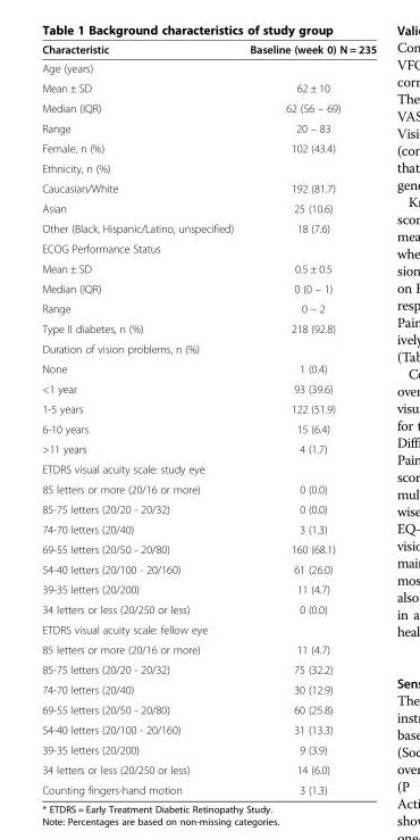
<table><thead><tr><td>Characteristic</td><td>Baseline (week 0) N = 235</td></tr></thead><tbody><tr><td colspan="2">Age (years)</td></tr><tr><td>Mean ± SD</td><td>62 ± 10</td></tr><tr><td>Median (IQR)</td><td>62 (56 – 69)</td></tr><tr><td>Range</td><td>20 – 83</td></tr><tr><td>Female, n (%)</td><td>102 (43.4)</td></tr><tr><td colspan="2">Ethnicity, n (%)</td></tr><tr><td>Caucasian/White</td><td>192 (81.7)</td></tr><tr><td>Asian</td><td>25 (10.6)</td></tr><tr><td>Other (Black, Hispanic/Latino, unspecified)</td><td>18 (7.6)</td></tr><tr><td colspan="2">ECOG Performance Status</td></tr><tr><td>Mean ± SD</td><td>0.5 ± 0.5</td></tr><tr><td>Median (IQR)</td><td>0 (0 – 1)</td></tr><tr><td>Range</td><td>0 – 2</td></tr><tr><td>Type II diabetes, n (%)</td><td>218 (92.8)</td></tr><tr><td colspan="2">Duration of vision problems, n (%)</td></tr><tr><td>None</td><td>1 (0.4)</td></tr><tr><td>&lt;1 year</td><td>93 (39.6)</td></tr><tr><td>1-5 years</td><td>122 (51.9)</td></tr><tr><td>6-10 years</td><td>15 (6.4)</td></tr><tr><td>&gt;11 years</td><td>4 (1.7)</td></tr><tr><td colspan="2">ETDRS visual acuity scale: study eye</td></tr><tr><td>85 letters or more (20/16 or more)</td><td>0 (0.0)</td></tr><tr><td>85-75 letters (20/20 - 20/32)</td><td>0 (0.0)</td></tr><tr><td>74-70 letters (20/40)</td><td>3 (1.3)</td></tr><tr><td>69-55 letters (20/50 - 20/80)</td><td>160 (68.1)</td></tr><tr><td>54-40 letters (20/100 - 20/160)</td><td>61 (26.0)</td></tr><tr><td>39-35 letters (20/200)</td><td>11 (4.7)</td></tr><tr><td>34 letters or less (20/250 or less)</td><td>0 (0.0)</td></tr><tr><td colspan="2">ETDRS visual acuity scale: fellow eye</td></tr><tr><td>85 letters or more (20/16 or more)</td><td>11 (4.7)</td></tr><tr><td>85-75 letters (20/20 - 20/32)</td><td>75 (32.2)</td></tr><tr><td>74-70 letters (20/40)</td><td>30 (12.9)</td></tr><tr><td>69-55 letters (20/50 - 20/80)</td><td>60 (25.8)</td></tr><tr><td>54-40 letters (20/100 - 20/160)</td><td>31 (13.3)</td></tr><tr><td>39-35 letters (20/200)</td><td>9 (3.9)</td></tr><tr><td>34 letters or less (20/250 or less)</td><td>14 (6.0)</td></tr><tr><td>Counting fingers-hand motion</td><td>3 (1.3)</td></tr></tbody></table>